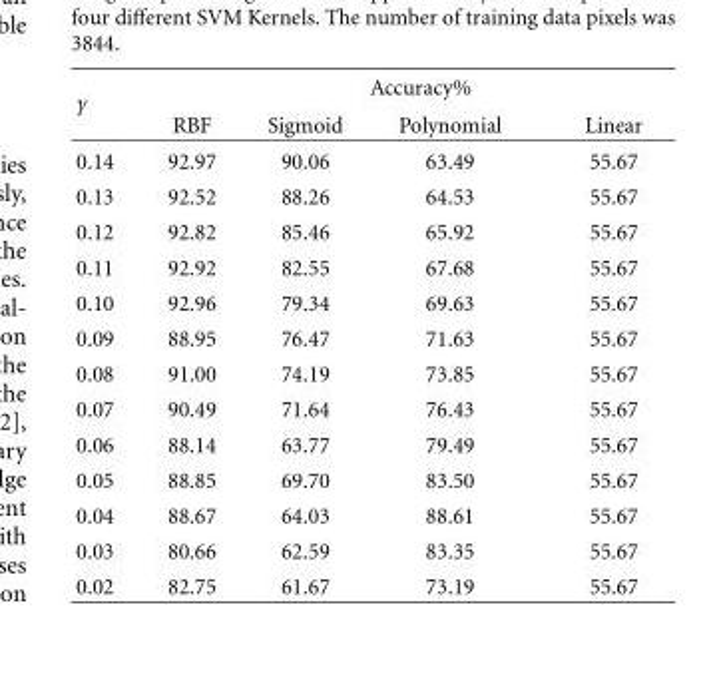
<table><thead><tr><td rowspan="2">γ</td><td colspan="4">Accuracy%</td></tr><tr><td>RBF</td><td>Sigmoid</td><td>Polynomial</td><td>Linear</td></tr></thead><tbody><tr><td>0.14</td><td>92.97</td><td>90.06</td><td>63.49</td><td>55.67</td></tr><tr><td>0.13</td><td>92.52</td><td>88.26</td><td>64.53</td><td>55.67</td></tr><tr><td>0.12</td><td>92.82</td><td>85.46</td><td>65.92</td><td>55.67</td></tr><tr><td>0.11</td><td>92.92</td><td>82.55</td><td>67.68</td><td>55.67</td></tr><tr><td>0.10</td><td>92.96</td><td>79.34</td><td>69.63</td><td>55.67</td></tr><tr><td>0.09</td><td>88.95</td><td>76.47</td><td>71.63</td><td>55.67</td></tr><tr><td>0.08</td><td>91.00</td><td>74.19</td><td>73.85</td><td>55.67</td></tr><tr><td>0.07</td><td>90.49</td><td>71.64</td><td>76.43</td><td>55.67</td></tr><tr><td>0.06</td><td>88.14</td><td>63.77</td><td>79.49</td><td>55.67</td></tr><tr><td>0.05</td><td>88.85</td><td>69.70</td><td>83.50</td><td>55.67</td></tr><tr><td>0.04</td><td>88.67</td><td>64.03</td><td>88.61</td><td>55.67</td></tr><tr><td>0.03</td><td>80.66</td><td>62.59</td><td>83.35</td><td>55.67</td></tr><tr><td>0.02</td><td>82.75</td><td>61.67</td><td>73.19</td><td>55.67</td></tr></tbody></table>